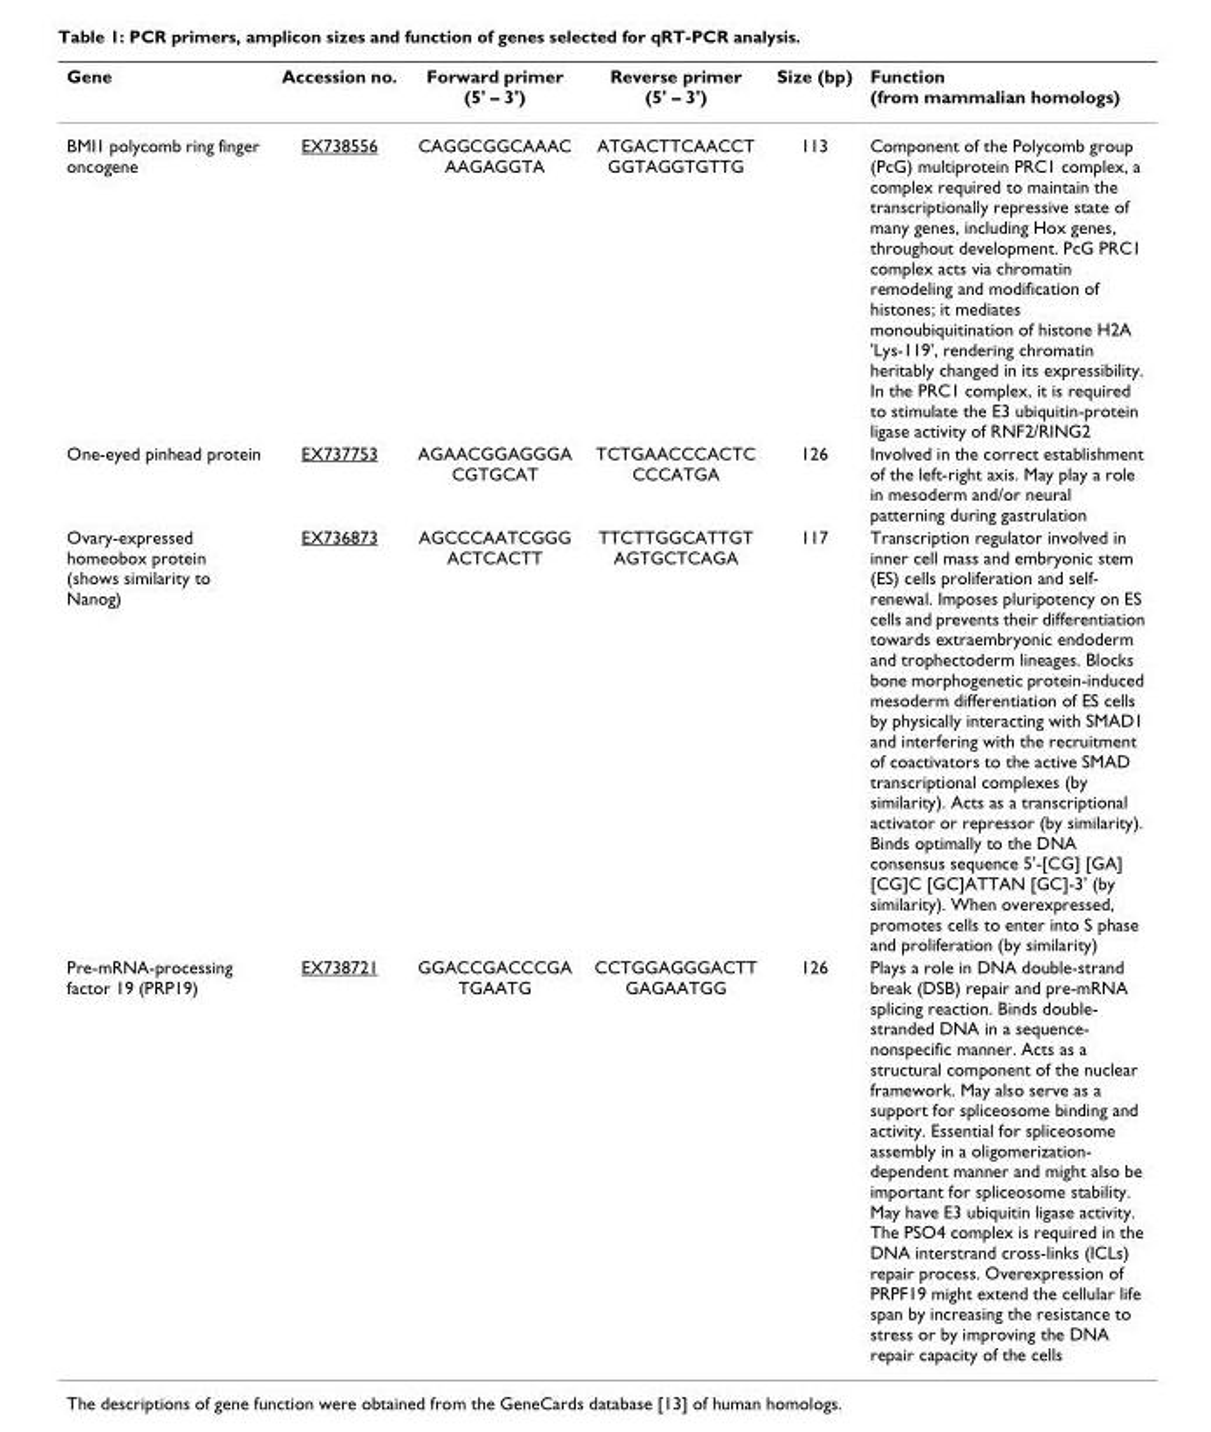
<table><thead><tr><td>Gene</td><td>Accession no.</td><td>Forward primer (5&#x27; – 3&#x27;)</td><td>Reverse primer (5&#x27; – 3&#x27;)</td><td>Size (bp)</td><td>Function (from mammalian homologs)</td></tr></thead><tbody><tr><td>BMI1 polycomb ring finger oncogene</td><td>EX738556</td><td>CAGGCGGCAAAC AAGAGGTA</td><td>ATGACTTCAACCT GGTAGGTGTTG</td><td>113</td><td>Component of the Polycomb group (PcG) multiprotein PRC1 complex, a complex required to maintain the transcriptionally repressive state of many genes, including Hox genes, throughout development. PcG PRC1 complex acts via chromatin remodeling and modification of histones; it mediates monoubiquitination of histone H2A &#x27;Lys-119&#x27;, rendering chromatin heritably changed in its expressibility. In the PRC1 complex, it is required to stimulate the E3 ubiquitin-protein ligase activity of RNF2/RING2</td></tr><tr><td>One-eyed pinhead protein</td><td>EX737753</td><td>AGAACGGAGGGA CGTGCAT</td><td>TCTGAACCCACTC CCCATGA</td><td>126</td><td>Involved in the correct establishment of the left-right axis. May play a role in mesoderm and/or neural patterning during gastrulation</td></tr><tr><td>Ovary-expressed homeobox protein (shows similarity to Nanog)</td><td>EX736873</td><td>AGCCCAATCGGG ACTCACTT</td><td>TTCTTGGCATTGT AGTGCTCAGA</td><td>117</td><td>Transcription regulator involved in inner cell mass and embryonic stem (ES) cells proliferation and self- renewal. Imposes pluripotency on ES cells and prevents their differentiation towards extraembryonic endoderm and trophectoderm lineages. Blocks bone morphogenetic protein-induced mesoderm differentiation of ES cells by physically interacting with SMAD1 and interfering with the recruitment of coactivators to the active SMAD transcriptional complexes (by similarity). Acts as a transcriptional activator or repressor (by similarity). Binds optimally to the DNA consensus sequence 5&#x27;-[CG] [GA] [CG]C [GC]ATTAN [GC]-3&#x27; (by similarity). When overexpressed, promotes cells to enter into S phase and proliferation (by similarity)</td></tr><tr><td>Pre-mRNA-processing factor 19 (PRP19)</td><td>EX738721</td><td>GGACCGACCCGA TGAATG</td><td>CCTGGAGGGACTT GAGAATGG</td><td>126</td><td>Plays a role in DNA double-strand break (DSB) repair and pre-mRNA splicing reaction. Binds double- stranded DNA in a sequence- nonspecific manner. Acts as a structural component of the nuclear framework. May also serve as a support for spliceosome binding and activity. Essential for spliceosome assembly in a oligomerization- dependent manner and might also be important for spliceosome stability. May have E3 ubiquitin ligase activity. The PSO4 complex is required in the DNA interstrand cross-links (ICLs) repair process. Overexpression of PRPF19 might extend the cellular life span by increasing the resistance to stress or by improving the DNA repair capacity of the cells</td></tr></tbody></table>